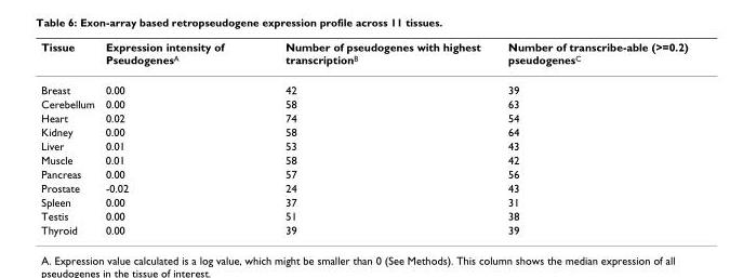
<table><thead><tr><td>Tissue</td><td>Expression intensity of Pseudogenes<sup>A</sup></td><td>Number of pseudogenes with highest transcription<sup>B</sup></td><td>Number of transcribe-able (&gt;=0.2) pseudogenes<sup>C</sup></td></tr></thead><tbody><tr><td>Breast</td><td>0.00</td><td>42</td><td>39</td></tr><tr><td>Cerebellum</td><td>0.00</td><td>58</td><td>63</td></tr><tr><td>Heart</td><td>0.02</td><td>74</td><td>54</td></tr><tr><td>Kidney</td><td>0.00</td><td>58</td><td>64</td></tr><tr><td>Liver</td><td>0.01</td><td>53</td><td>43</td></tr><tr><td>Muscle</td><td>0.01</td><td>58</td><td>42</td></tr><tr><td>Pancreas</td><td>0.00</td><td>57</td><td>56</td></tr><tr><td>Prostate</td><td>-0.02</td><td>24</td><td>43</td></tr><tr><td>Spleen</td><td>0.00</td><td>37</td><td>31</td></tr><tr><td>Testis</td><td>0.00</td><td>51</td><td>38</td></tr><tr><td>Thyroid</td><td>0.00</td><td>39</td><td>39</td></tr></tbody></table>